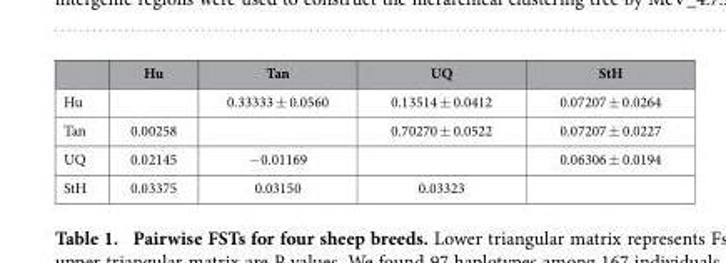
<table><thead><tr><td></td><td>Hu</td><td>Tan</td><td>UQ</td><td>StH</td></tr></thead><tbody><tr><td>Hu</td><td></td><td>0.33333 ± 0.0560</td><td>0.13514 ± 0.0412</td><td>0.07207 ± 0.0264</td></tr><tr><td>Tan</td><td>0.00258</td><td></td><td>0.70270 ± 0.0522</td><td>0.07207 ± 0.0227</td></tr><tr><td>UQ</td><td>0.02145</td><td>− 0.01169</td><td></td><td>0.06306 ± 0.0194</td></tr><tr><td>StH</td><td>0.03375</td><td>0.03150</td><td>0.03323</td><td></td></tr></tbody></table>